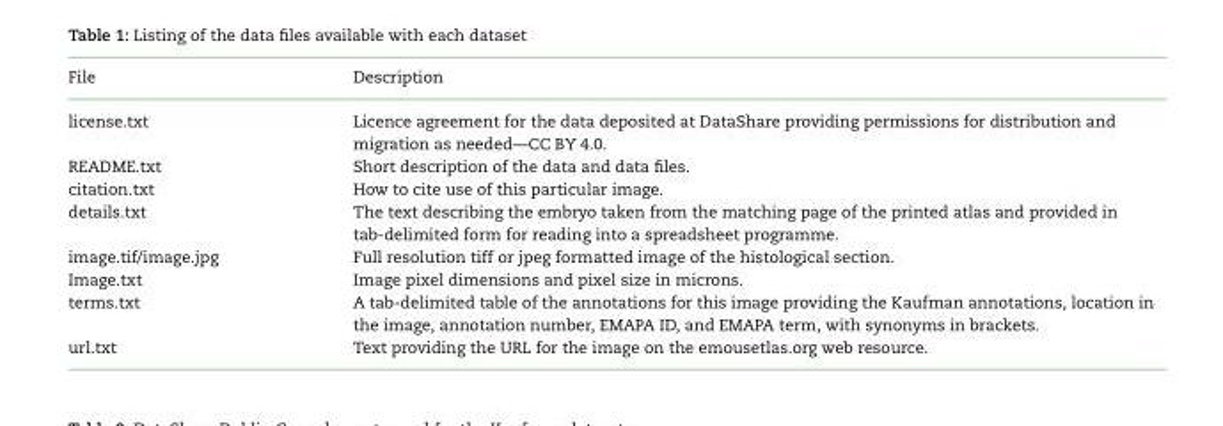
<table><thead><tr><td>File</td><td>Description</td></tr></thead><tbody><tr><td>license.txt</td><td>Licence agreement for the data deposited at DataShare providing permissions for distribution and migration as needed—CC BY 4.0.</td></tr><tr><td>README.txt</td><td>Short description of the data and data files.</td></tr><tr><td>citation.txt</td><td>How to cite use of this particular image.</td></tr><tr><td>details.txt</td><td>The text describing the embryo taken from the matching page of the printed atlas and provided in tab-delimited form for reading into a spreadsheet programme.</td></tr><tr><td>image.tif/image.jpg</td><td>Full resolution tiff or jpeg formatted image of the histological section.</td></tr><tr><td>Image.txt</td><td>Image pixel dimensions and pixel size in microns.</td></tr><tr><td>terms.txt</td><td>A tab-delimited table of the annotations for this image providing the Kaufman annotations, location in the image, annotation number, EMAPA ID, and EMAPA term, with synonyms in brackets.</td></tr><tr><td>url.txt</td><td>Text providing the URL for the image on the emousetlas.org web resource.</td></tr></tbody></table>